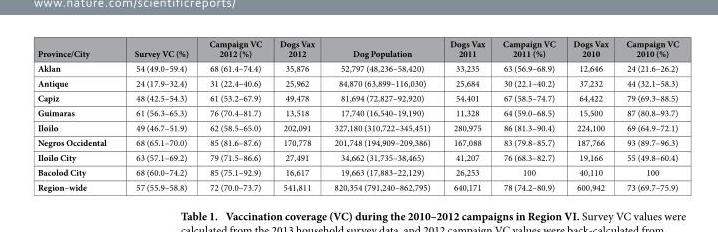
<table><thead><tr><td>Province/City</td><td>Survey VC (%)</td><td>Campaign VC 2012 (%)</td><td>Dogs Vax 2012</td><td>Dog Population</td><td>Dogs Vax 2011</td><td>Campaign VC 2011 (%)</td><td>Dogs Vax 2010</td><td>Campaign VC 2010 (%)</td></tr></thead><tbody><tr><td>Aklan</td><td>54 (49.0–59.4)</td><td>68 (61.4–74.4)</td><td>35,876</td><td>52,797 (48,236–58,420)</td><td>33,235</td><td>63 (56.9–68.9)</td><td>12,646</td><td>24 (21.6–26.2)</td></tr><tr><td>Antique</td><td>24 (17.9–32.4)</td><td>31 (22.4–40.6)</td><td>25,962</td><td>84,870 (63,899–116,030)</td><td>25,684</td><td>30 (22.1–40.2)</td><td>37,232</td><td>44 (32.1–58.3)</td></tr><tr><td>Capiz</td><td>48 (42.5–54.3)</td><td>61 (53.2–67.9)</td><td>49,478</td><td>81,694 (72,827–92,920)</td><td>54,401</td><td>67 (58.5–74.7)</td><td>64,422</td><td>79 (69.3–88.5)</td></tr><tr><td>Guimaras</td><td>61 (56.3–65.3)</td><td>76 (70.4–81.7)</td><td>13,518</td><td>17,740 (16,540–19,190)</td><td>11,328</td><td>64 (59.0–68.5)</td><td>15,500</td><td>87 (80.8–93.7)</td></tr><tr><td>Iloilo</td><td>49 (46.7–51.9)</td><td>62 (58.5–65.0)</td><td>202,091</td><td>327,180 (310,722–345,451)</td><td>280,975</td><td>86 (81.3–90.4)</td><td>224,100</td><td>69 (64.9–72.1)</td></tr><tr><td>Negros Occidental</td><td>68 (65.1–70.0)</td><td>85 (81.6–87.6)</td><td>170,778</td><td>201,748 (194,909–209,386)</td><td>167,088</td><td>83 (79.8–85.7)</td><td>187,766</td><td>93 (89.7–96.3)</td></tr><tr><td>Iloilo City</td><td>63 (57.1–69.2)</td><td>79 (71.5–86.6)</td><td>27,491</td><td>34,662 (31,735–38,465)</td><td>41,207</td><td>76 (68.3–82.7)</td><td>19,166</td><td>55 (49.8–60.4)</td></tr><tr><td>Bacolod City</td><td>68 (60.0–74.2)</td><td>85 (75.1–92.9)</td><td>16,617</td><td>19,663 (17,883–22,129)</td><td>26,253</td><td>100</td><td>40,110</td><td>100</td></tr><tr><td>Region–wide</td><td>57 (55.9–58.8)</td><td>72 (70.0–73.7)</td><td>541,811</td><td>820,354 (791,240–862,795)</td><td>640,171</td><td>78 (74.2–80.9)</td><td>600,942</td><td>73 (69.7–75.9)</td></tr></tbody></table>